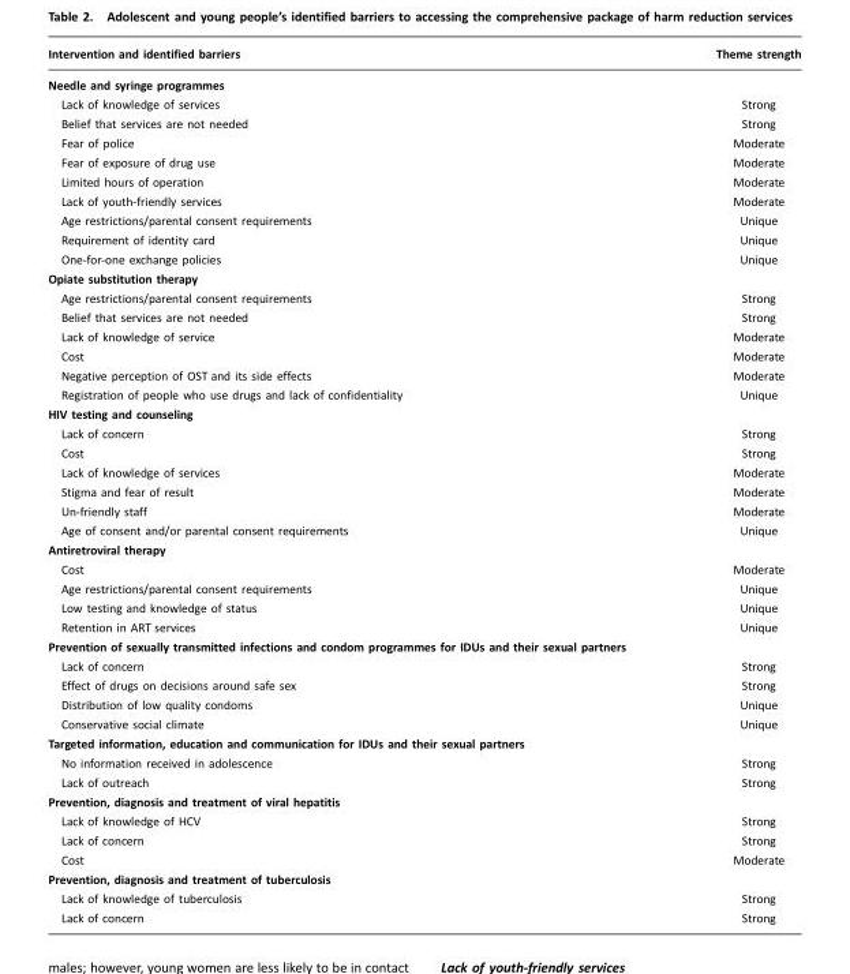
<table><thead><tr><td>Intervention and identified barriers</td><td>Theme strength</td></tr></thead><tbody><tr><td colspan="2">Needle and syringe programmes</td></tr><tr><td>Lack of knowledge of services</td><td>Strong</td></tr><tr><td>Belief that services are not needed</td><td>Strong</td></tr><tr><td>Fear of police</td><td>Moderate</td></tr><tr><td>Fear of exposure of drug use</td><td>Moderate</td></tr><tr><td>Limited hours of operation</td><td>Moderate</td></tr><tr><td>Lack of youth-friendly services</td><td>Moderate</td></tr><tr><td>Age restrictions/parental consent requirements</td><td>Unique</td></tr><tr><td>Requirement of identity card</td><td>Unique</td></tr><tr><td>One-for-one exchange policies</td><td>Unique</td></tr><tr><td colspan="2">Opiate substitution therapy</td></tr><tr><td>Age restrictions/parental consent requirements</td><td>Strong</td></tr><tr><td>Belief that services are not needed</td><td>Strong</td></tr><tr><td>Lack of knowledge of service</td><td>Moderate</td></tr><tr><td>Cost</td><td>Moderate</td></tr><tr><td>Negative perception of OST and its side effects</td><td>Moderate</td></tr><tr><td>Registration of people who use drugs and lack of confidentiality</td><td>Unique</td></tr><tr><td colspan="2">HIV testing and counseling</td></tr><tr><td>Lack of concern</td><td>Strong</td></tr><tr><td>Cost</td><td>Strong</td></tr><tr><td>Lack of knowledge of services</td><td>Moderate</td></tr><tr><td>Stigma and fear of result</td><td>Moderate</td></tr><tr><td>Un-friendly staff</td><td>Moderate</td></tr><tr><td>Age of consent and/or parental consent requirements</td><td>Unique</td></tr><tr><td colspan="2">Antiretroviral therapy</td></tr><tr><td>Cost</td><td>Moderate</td></tr><tr><td>Age restrictions/parental consent requirements</td><td>Unique</td></tr><tr><td>Low testing and knowledge of status</td><td>Unique</td></tr><tr><td>Retention in ART services</td><td>Unique</td></tr><tr><td colspan="2">Prevention of sexually transmitted infections and condom programmes for IDUs and their sexual partners</td></tr><tr><td>Lack of concern</td><td>Strong</td></tr><tr><td>Effect of drugs on decisions around safe sex</td><td>Strong</td></tr><tr><td>Distribution of low quality condoms</td><td>Unique</td></tr><tr><td>Conservative social climate</td><td>Unique</td></tr><tr><td colspan="2">Targeted information, education and communication for IDUs and their sexual partners</td></tr><tr><td>No information received in adolescence</td><td>Strong</td></tr><tr><td>Lack of outreach</td><td>Strong</td></tr><tr><td colspan="2">Prevention, diagnosis and treatment of viral hepatitis</td></tr><tr><td>Lack of knowledge of HCV</td><td>Strong</td></tr><tr><td>Lack of concern</td><td>Strong</td></tr><tr><td>Cost</td><td>Moderate</td></tr><tr><td colspan="2">Prevention, diagnosis and treatment of tuberculosis</td></tr><tr><td>Lack of knowledge of tuberculosis</td><td>Strong</td></tr><tr><td>Lack of concern</td><td>Strong</td></tr></tbody></table>